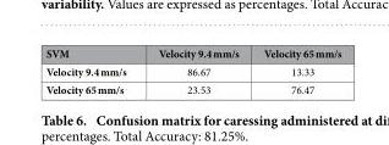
<table><thead><tr><td>SVM</td><td>Velocity 9.4 mm/s</td><td>Velocity 65 mm/s</td></tr></thead><tbody><tr><td>Velocity 9.4 mm/s</td><td>86.67</td><td>13.33</td></tr><tr><td>Velocity 65 mm/s</td><td>23.53</td><td>76.47</td></tr></tbody></table>